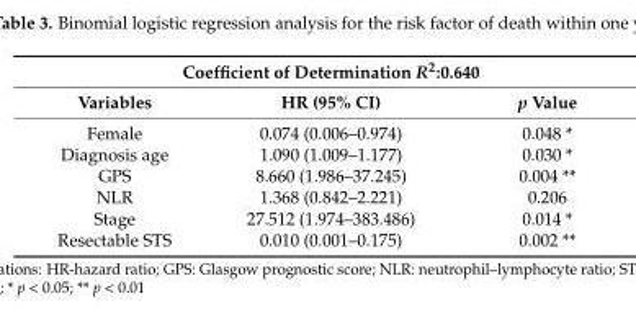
<table><thead><tr><td colspan="3">Coefficient of Determination R<sup>2</sup>:0.640</td></tr><tr><td>Variables</td><td>HR (95% CI)</td><td>p Value</td></tr></thead><tbody><tr><td>Female</td><td>0.074 (0.006–0.974)</td><td>0.048 *</td></tr><tr><td>Diagnosis age</td><td>1.090 (1.009–1.177)</td><td>0.030 *</td></tr><tr><td>GPS</td><td>8.660 (1.986–37.245)</td><td>0.004 **</td></tr><tr><td>NLR</td><td>1.368 (0.842–2.221)</td><td>0.206</td></tr><tr><td>Stage</td><td>27.512 (1.974–383.486)</td><td>0.014 *</td></tr><tr><td>Resectable STS</td><td>0.010 (0.001–0.175)</td><td>0.002 **</td></tr></tbody></table>